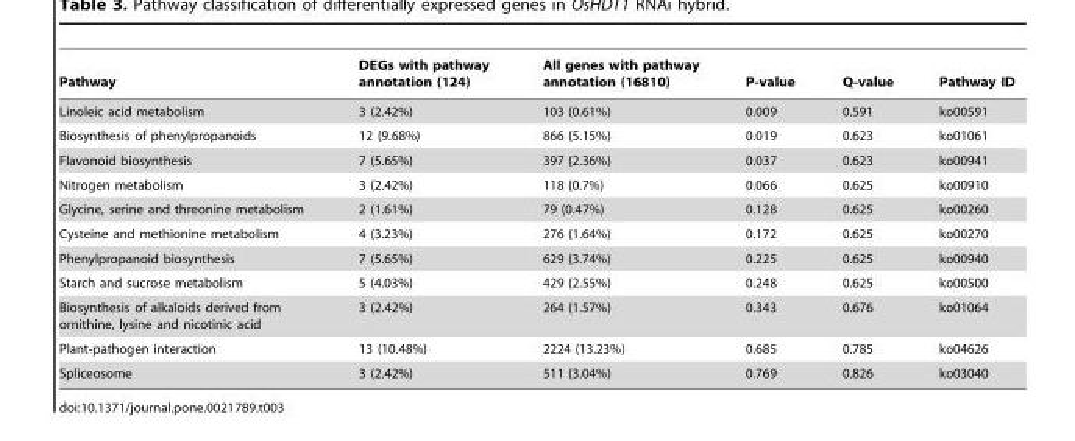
<table><thead><tr><td>Pathway</td><td>DEGs with pathway annotation (124)</td><td>All genes with pathway annotation (16810)</td><td>P-value</td><td>Q-value</td><td>Pathway ID</td></tr></thead><tbody><tr><td>Linoleic acid metabolism</td><td>3 (2.42%)</td><td>103 (0.61%)</td><td>0.009</td><td>0.591</td><td>ko00591</td></tr><tr><td>Biosynthesis of phenylpropanoids</td><td>12 (9.68%)</td><td>866 (5.15%)</td><td>0.019</td><td>0.623</td><td>ko01061</td></tr><tr><td>Flavonoid biosynthesis</td><td>7 (5.65%)</td><td>397 (2.36%)</td><td>0.037</td><td>0.623</td><td>ko00941</td></tr><tr><td>Nitrogen metabolism</td><td>3 (2.42%)</td><td>118 (0.7%)</td><td>0.066</td><td>0.625</td><td>ko00910</td></tr><tr><td>Glycine, serine and threonine metabolism</td><td>2 (1.61%)</td><td>79 (0.47%)</td><td>0.128</td><td>0.625</td><td>ko00260</td></tr><tr><td>Cysteine and methionine metabolism</td><td>4 (3.23%)</td><td>276 (1.64%)</td><td>0.172</td><td>0.625</td><td>ko00270</td></tr><tr><td>Phenylpropanoid biosynthesis</td><td>7 (5.65%)</td><td>629 (3.74%)</td><td>0.225</td><td>0.625</td><td>ko00940</td></tr><tr><td>Starch and sucrose metabolism</td><td>5 (4.03%)</td><td>429 (2.55%)</td><td>0.248</td><td>0.625</td><td>ko00500</td></tr><tr><td>Biosynthesis of alkaloids derived from ornithine, lysine and nicotinic acid</td><td>3 (2.42%)</td><td>264 (1.57%)</td><td>0.343</td><td>0.676</td><td>ko01064</td></tr><tr><td>Plant-pathogen interaction</td><td>13 (10.48%)</td><td>2224 (13.23%)</td><td>0.685</td><td>0.785</td><td>ko04626</td></tr><tr><td>Spliceosome</td><td>3 (2.42%)</td><td>511 (3.04%)</td><td>0.769</td><td>0.826</td><td>ko03040</td></tr></tbody></table>